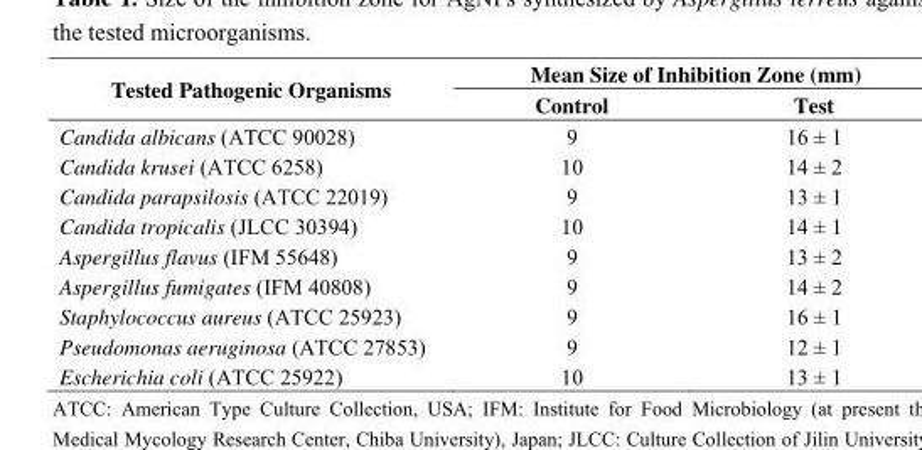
<table><thead><tr><td rowspan="2">Tested Pathogenic Organisms</td><td colspan="2">Mean Size of Inhibition Zone (mm)</td></tr><tr><td>Control</td><td>Test</td></tr></thead><tbody><tr><td>Candida albicans (ATCC 90028)</td><td>9</td><td>16 ± 1</td></tr><tr><td>Candida krusei (ATCC 6258)</td><td>10</td><td>14 ± 2</td></tr><tr><td>Candida parapsilosis (ATCC 22019)</td><td>9</td><td>13 ± 1</td></tr><tr><td>Candida tropicalis (JLCC 30394)</td><td>10</td><td>14 ± 1</td></tr><tr><td>Aspergillus flavus (IFM 55648)</td><td>9</td><td>13 ± 2</td></tr><tr><td>Aspergillus fumigates (IFM 40808)</td><td>9</td><td>14 ± 2</td></tr><tr><td>Staphylococcus aureus (ATCC 25923)</td><td>9</td><td>16 ± 1</td></tr><tr><td>Pseudomonas aeruginosa (ATCC 27853)</td><td>9</td><td>12 ± 1</td></tr><tr><td>Escherichia coli (ATCC 25922)</td><td>10</td><td>13 ± 1</td></tr></tbody></table>